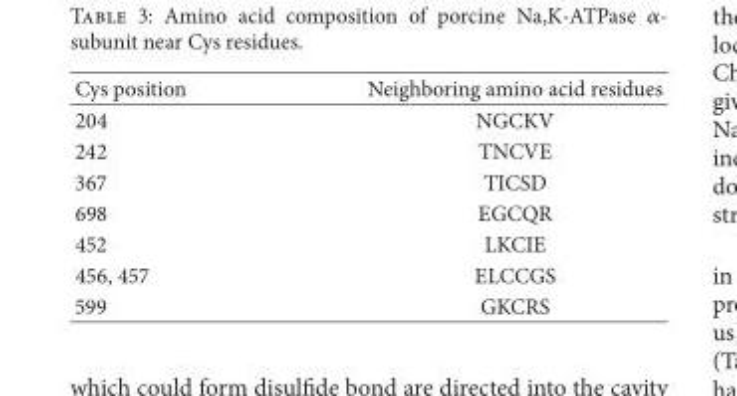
<table><thead><tr><td>Cys position</td><td>Neighboring amino acid residues</td></tr></thead><tbody><tr><td>204</td><td>NGCKV</td></tr><tr><td>242</td><td>TNCVE</td></tr><tr><td>367</td><td>TICSD</td></tr><tr><td>698</td><td>EGCQR</td></tr><tr><td>452</td><td>LKCIE</td></tr><tr><td>456, 457</td><td>ELCCGS</td></tr><tr><td>599</td><td>GKCRS</td></tr></tbody></table>